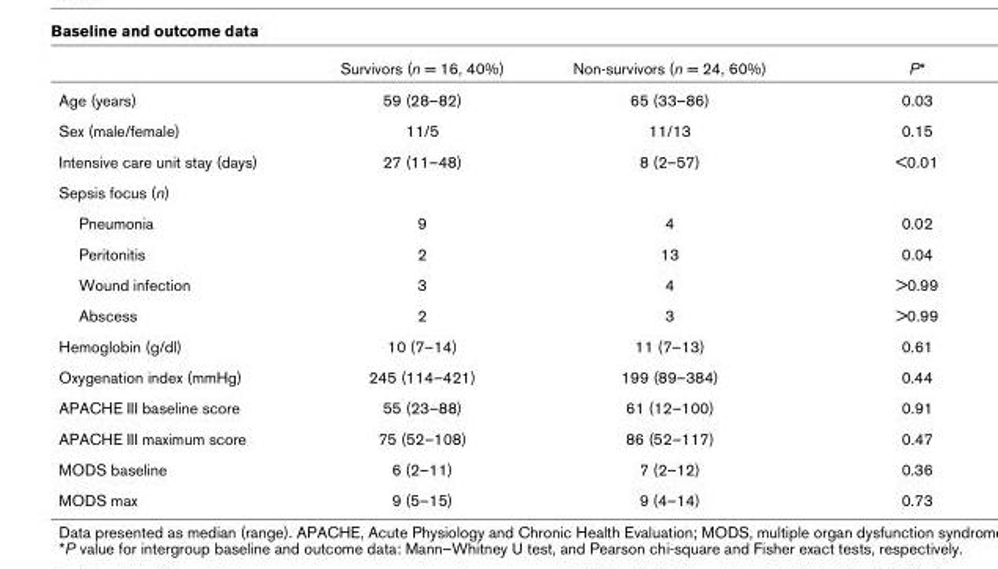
<table><thead><tr><td></td><td>Survivors (n = 16, 40%)</td><td>Non-survivors (n = 24, 60%)</td><td>P*</td></tr></thead><tbody><tr><td>Age (years)</td><td>59 (28–82)</td><td>65 (33–86)</td><td>0.03</td></tr><tr><td>Sex (male/female)</td><td>11/5</td><td>11/13</td><td>0.15</td></tr><tr><td>Intensive care unit stay (days)</td><td>27 (11–48)</td><td>8 (2–57)</td><td>&lt;0.01</td></tr><tr><td colspan="4">Sepsis focus (n)</td></tr><tr><td>Pneumonia</td><td>9</td><td>4</td><td>0.02</td></tr><tr><td>Peritonitis</td><td>2</td><td>13</td><td>0.04</td></tr><tr><td>Wound infection</td><td>3</td><td>4</td><td>&gt;0.99</td></tr><tr><td>Abscess</td><td>2</td><td>3</td><td>&gt;0.99</td></tr><tr><td>Hemoglobin (g/dl)</td><td>10 (7–14)</td><td>11 (7–13)</td><td>0.61</td></tr><tr><td>Oxygenation index (mmHg)</td><td>245 (114–421)</td><td>199 (89–384)</td><td>0.44</td></tr><tr><td>APACHE III baseline score</td><td>55 (23–88)</td><td>61 (12–100)</td><td>0.91</td></tr><tr><td>APACHE III maximum score</td><td>75 (52–108)</td><td>86 (52–117)</td><td>0.47</td></tr><tr><td>MODS baseline</td><td>6 (2–11)</td><td>7 (2–12)</td><td>0.36</td></tr><tr><td>MODS max</td><td>9 (5–15)</td><td>9 (4–14)</td><td>0.73</td></tr></tbody></table>